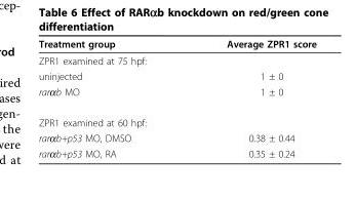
<table><thead><tr><td>Treatment group</td><td>Average ZPR1 score</td></tr></thead><tbody><tr><td colspan="2">ZPR1 examined at 75 hpf:</td></tr><tr><td>uninjected</td><td>1 ± 0</td></tr><tr><td>rarαb MO</td><td>1 ± 0</td></tr><tr><td colspan="2">ZPR1 examined at 60 hpf:</td></tr><tr><td>rarαb+p53 MO, DMSO</td><td>0.38 ± 0.44</td></tr><tr><td>rarαb+p53 MO, RA</td><td>0.35 ± 0.24</td></tr></tbody></table>